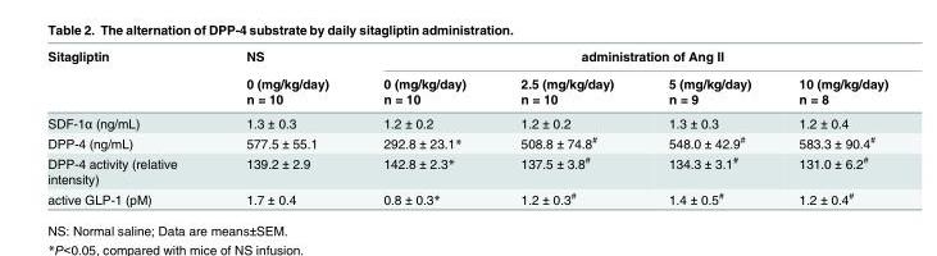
<table><thead><tr><td rowspan="2">Sitagliptin</td><td rowspan="2">NS 0 (mg/kg/day) n = 10</td><td colspan="4">administration of Ang II</td></tr><tr><td>0 (mg/kg/day) n = 10</td><td>2.5 (mg/kg/day) n = 10</td><td>5 (mg/kg/day) n = 9</td><td>10 (mg/kg/day) n = 8</td></tr></thead><tbody><tr><td>SDF-1α (ng/mL)</td><td>1.3 ± 0.3</td><td>1.2 ± 0.2</td><td>1.2 ± 0.2</td><td>1.3 ± 0.3</td><td>1.2 ± 0.4</td></tr><tr><td>DPP-4 (ng/mL)</td><td>577.5 ± 55.1</td><td>292.8 ± 23.1*</td><td>508.8 ± 74.8<sup>#</sup></td><td>548.0 ± 42.9<sup>#</sup></td><td>583.3 ± 90.4<sup>#</sup></td></tr><tr><td>DPP-4 activity (relative intensity)</td><td>139.2 ± 2.9</td><td>142.8 ± 2.3*</td><td>137.5 ± 3.8<sup>#</sup></td><td>134.3 ± 3.1<sup>#</sup></td><td>131.0 ± 6.2<sup>#</sup></td></tr><tr><td>active GLP-1 (pM)</td><td>1.7 ± 0.4</td><td>0.8 ± 0.3*</td><td>1.2 ± 0.3<sup>#</sup></td><td>1.4 ± 0.5<sup>#</sup></td><td>1.2 ± 0.4<sup>#</sup></td></tr></tbody></table>